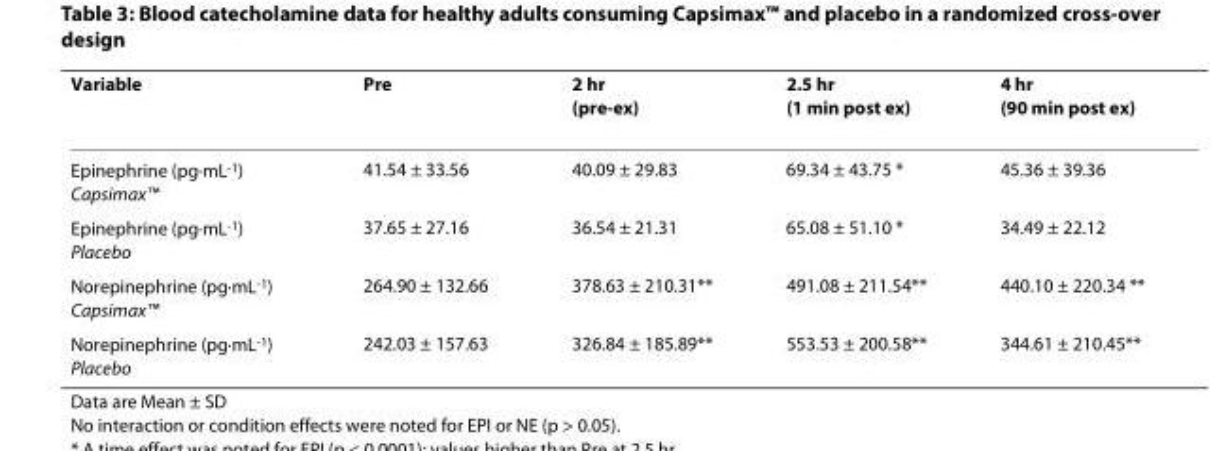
<table><thead><tr><td>Variable</td><td>Pre</td><td>2 hr (pre-ex)</td><td>2.5 hr (1 min post ex)</td><td>4 hr (90 min post ex)</td></tr></thead><tbody><tr><td>Epinephrine (pg·mL<sup>-1</sup>) Capsimax™</td><td>41.54 ± 33.56</td><td>40.09 ± 29.83</td><td>69.34 ± 43.75 *</td><td>45.36 ± 39.36</td></tr><tr><td>Epinephrine (pg·mL<sup>-1</sup>) Placebo</td><td>37.65 ± 27.16</td><td>36.54 ± 21.31</td><td>65.08 ± 51.10 *</td><td>34.49 ± 22.12</td></tr><tr><td>Norepinephrine (pg·mL<sup>-1</sup>) Capsimax™</td><td>264.90 ± 132.66</td><td>378.63 ± 210.31**</td><td>491.08 ± 211.54**</td><td>440.10 ± 220.34 **</td></tr><tr><td>Norepinephrine (pg·mL<sup>-1</sup>) Placebo</td><td>242.03 ± 157.63</td><td>326.84 ± 185.89**</td><td>553.53 ± 200.58**</td><td>344.61 ± 210.45**</td></tr></tbody></table>